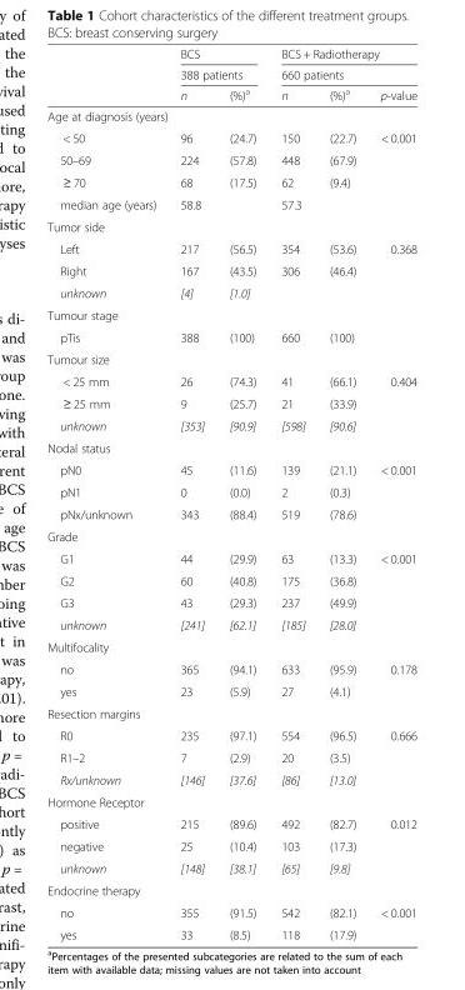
<table><thead><tr><td rowspan="3"></td><td rowspan="2" colspan="2">BCS 388 patients</td><td rowspan="2" colspan="3">BCS + Radiotherapy 660 patients</td></tr><tr></tr><tr><td>n</td><td>(%)<sup>a</sup></td><td>n</td><td>(%)<sup>a</sup></td><td>p-value</td></tr></thead><tbody><tr><td colspan="6">Age at diagnosis (years)</td></tr><tr><td>&lt; 50</td><td>96</td><td>(24.7)</td><td>150</td><td>(22.7)</td><td>&lt; 0.001</td></tr><tr><td>50–69</td><td>224</td><td>(57.8)</td><td>448</td><td>(67.9)</td><td></td></tr><tr><td>≥ 70</td><td>68</td><td>(17.5)</td><td>62</td><td>(9.4)</td><td></td></tr><tr><td>median age (years)</td><td>58.8</td><td></td><td>57.3</td><td></td><td></td></tr><tr><td colspan="6">Tumor side</td></tr><tr><td>Left</td><td>217</td><td>(56.5)</td><td>354</td><td>(53.6)</td><td>0.368</td></tr><tr><td>Right</td><td>167</td><td>(43.5)</td><td>306</td><td>(46.4)</td><td></td></tr><tr><td>unknown</td><td>[4]</td><td>[1.0]</td><td></td><td></td><td></td></tr><tr><td colspan="6">Tumour stage</td></tr><tr><td>pTis</td><td>388</td><td>(100)</td><td>660</td><td>(100)</td><td></td></tr><tr><td colspan="6">Tumour size</td></tr><tr><td>&lt; 25 mm</td><td>26</td><td>(74.3)</td><td>41</td><td>(66.1)</td><td>0.404</td></tr><tr><td>≥ 25 mm</td><td>9</td><td>(25.7)</td><td>21</td><td>(33.9)</td><td></td></tr><tr><td>unknown</td><td>[353]</td><td>[90.9]</td><td>[598]</td><td>[90.6]</td><td></td></tr><tr><td colspan="6">Nodal status</td></tr><tr><td>pN0</td><td>45</td><td>(11.6)</td><td>139</td><td>(21.1)</td><td>&lt; 0.001</td></tr><tr><td>pN1</td><td>0</td><td>(0.0)</td><td>2</td><td>(0.3)</td><td></td></tr><tr><td>pNx/unknown</td><td>343</td><td>(88.4)</td><td>519</td><td>(78.6)</td><td></td></tr><tr><td colspan="6">Grade</td></tr><tr><td>G1</td><td>44</td><td>(29.9)</td><td>63</td><td>(13.3)</td><td>&lt; 0.001</td></tr><tr><td>G2</td><td>60</td><td>(40.8)</td><td>175</td><td>(36.8)</td><td></td></tr><tr><td>G3</td><td>43</td><td>(29.3)</td><td>237</td><td>(49.9)</td><td></td></tr><tr><td>unknown</td><td>[241]</td><td>[62.1]</td><td>[185]</td><td>[28.0]</td><td></td></tr><tr><td colspan="6">Multifocality</td></tr><tr><td>no</td><td>365</td><td>(94.1)</td><td>633</td><td>(95.9)</td><td>0.178</td></tr><tr><td>yes</td><td>23</td><td>(5.9)</td><td>27</td><td>(4.1)</td><td></td></tr><tr><td colspan="6">Resection margins</td></tr><tr><td>R0</td><td>235</td><td>(97.1)</td><td>554</td><td>(96.5)</td><td>0.666</td></tr><tr><td>R1–2</td><td>7</td><td>(2.9)</td><td>20</td><td>(3.5)</td><td></td></tr><tr><td>Rx/unknown</td><td>[146]</td><td>[37.6]</td><td>[86]</td><td>[13.0]</td><td></td></tr><tr><td colspan="6">Hormone Receptor</td></tr><tr><td>positive</td><td>215</td><td>(89.6)</td><td>492</td><td>(82.7)</td><td>0.012</td></tr><tr><td>negative</td><td>25</td><td>(10.4)</td><td>103</td><td>(17.3)</td><td></td></tr><tr><td>unknown</td><td>[148]</td><td>[38.1]</td><td>[65]</td><td>[9.8]</td><td></td></tr><tr><td colspan="6">Endocrine therapy</td></tr><tr><td>no</td><td>355</td><td>(91.5)</td><td>542</td><td>(82.1)</td><td>&lt; 0.001</td></tr><tr><td>yes</td><td>33</td><td>(8.5)</td><td>118</td><td>(17.9)</td><td></td></tr></tbody></table>